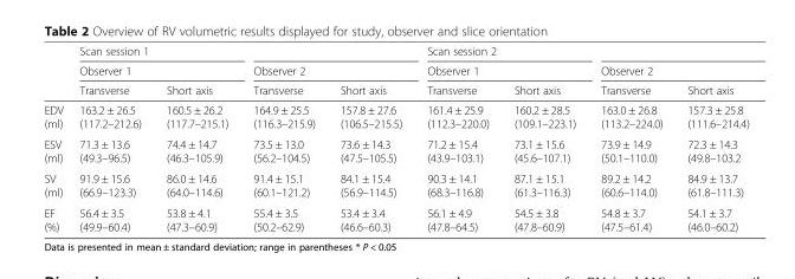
<table><thead><tr><td rowspan="3"></td><td rowspan="2" colspan="2">Scan session 1 Observer 1</td><td></td><td></td><td rowspan="2" colspan="2">Scan session 2 Observer 1</td><td></td><td></td></tr><tr><td colspan="2">Observer 2</td><td colspan="2">Observer 2</td></tr><tr><td>Transverse</td><td>Short axis</td><td>Transverse</td><td>Short axis</td><td>Transverse</td><td>Short axis</td><td>Transverse</td><td>Short axis</td></tr></thead><tbody><tr><td>EDV (ml)</td><td>163.2 ± 26.5 (117.2–212.6)</td><td>160.5 ± 26.2 (117.7–215.1)</td><td>164.9 ± 25.5 (116.3–215.9)</td><td>157.8 ± 27.6 (106.5–215.5)</td><td>161.4 ± 25.9 (112.3–220.0)</td><td>160.2 ± 28.5 (109.1–223.1)</td><td>163.0 ± 26.8 (113.2–224.0)</td><td>157.3 ± 25.8 (111.6–214.4)</td></tr><tr><td>ESV (ml)</td><td>71.3 ± 13.6 (49.3–96.5)</td><td>74.4 ± 14.7 (46.3–105.9)</td><td>73.5 ± 13.0 (56.2–104.5)</td><td>73.6 ± 14.3 (47.5–105.5)</td><td>71.2 ± 15.4 (43.9–103.1)</td><td>73.1 ± 15.6 (45.6–107.1)</td><td>73.9 ± 14.9 (50.1–110.0)</td><td>72.3 ± 14.3 (49.8–103.2</td></tr><tr><td>SV (ml)</td><td>91.9 ± 15.6 (66.9–123.3)</td><td>86.0 ± 14.6 (64.0–114.6)</td><td>91.4 ± 15.1 (60.1–121.2)</td><td>84.1 ± 15.4 (56.9–114.5)</td><td>90.3 ± 14.1 (68.3–116.8)</td><td>87.1 ± 15.1 (61.3–116.3)</td><td>89.2 ± 14.2 (60.6–114.0)</td><td>84.9 ± 13.7 (61.8–111.3)</td></tr><tr><td>EF (%)</td><td>56.4 ± 3.5 (49.9–60.4)</td><td>53.8 ± 4.1 (47.3–60.9)</td><td>55.4 ± 3.5 (50.2–62.9)</td><td>53.4 ± 3.4 (46.6–60.3)</td><td>56.1 ± 4.9 (47.8–64.5)</td><td>54.5 ± 3.8 (47.8–60.9)</td><td>54.8 ± 3.7 (47.5–61.4)</td><td>54.1 ± 3.7 (46.0–60.2)</td></tr></tbody></table>